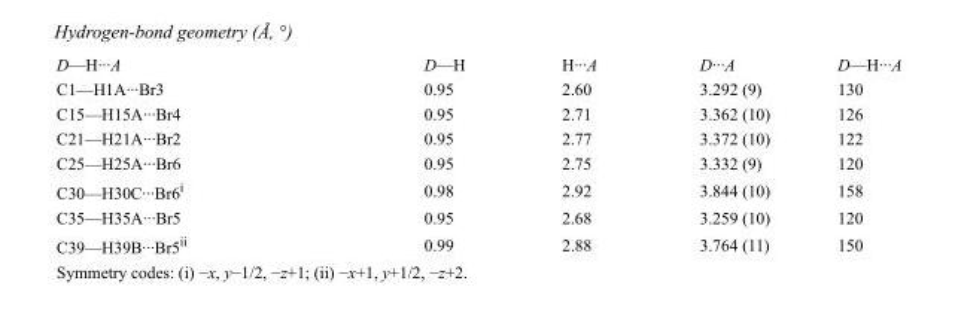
<table><tbody><tr><td>D—H···A</td><td>D—H</td><td>H···A</td><td>D···A</td><td>D—H···A</td></tr><tr><td>C1—H1A···Br3</td><td>0.95</td><td>2.60</td><td>3.292 (9)</td><td>130</td></tr><tr><td>C15—H15A···Br4</td><td>0.95</td><td>2.71</td><td>3.362 (10)</td><td>126</td></tr><tr><td>C21—H21A···Br2</td><td>0.95</td><td>2.77</td><td>3.372 (10)</td><td>122</td></tr><tr><td>C25—H25A···Br6</td><td>0.95</td><td>2.75</td><td>3.332 (9)</td><td>120</td></tr><tr><td>C30—H30C···Br6<sup>i</sup></td><td>0.98</td><td>2.92</td><td>3.844 (10)</td><td>158</td></tr><tr><td>C35—H35A···Br5</td><td>0.95</td><td>2.68</td><td>3.259 (10)</td><td>120</td></tr><tr><td>C39—H39B···Br5<sup>ii</sup></td><td>0.99</td><td>2.88</td><td>3.764 (11)</td><td>150</td></tr></tbody></table>